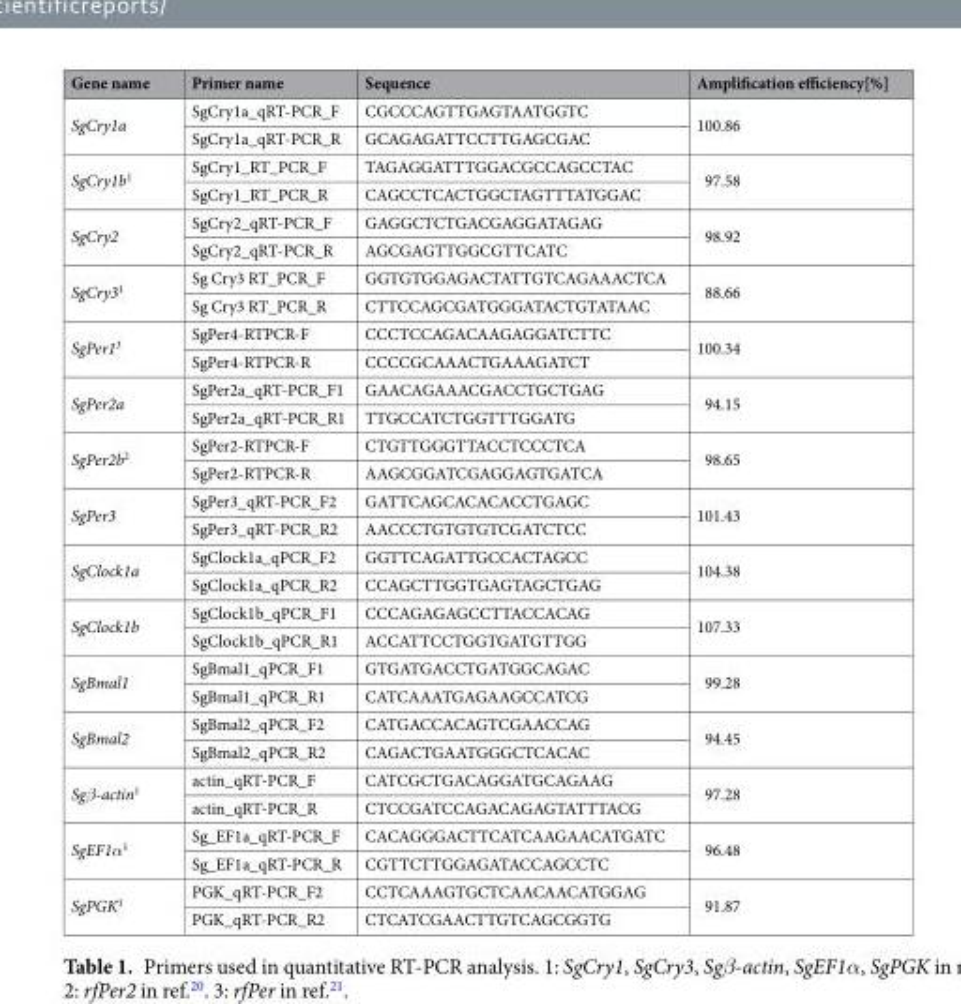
<table><thead><tr><td>Gene name</td><td>Primer name</td><td>Sequence</td><td>Amplification efficiency[%]</td></tr></thead><tbody><tr><td rowspan="2">SgCry1a</td><td>SgCry1a_qRT-PCR_F</td><td>CGCCCAGTTGAGTAATGGTC</td><td rowspan="2">100.86</td></tr><tr><td>SgCry1a_qRT-PCR_R</td><td>GCAGAGATTCCTTGAGCGAC</td></tr><tr><td rowspan="2">SgCry1b<sup>1</sup></td><td>SgCry1_RT_PCR_F</td><td>TAGAGGATTTGGACGCCAGCCTAC</td><td rowspan="2">97.58</td></tr><tr><td>SgCry1_RT_PCR_R</td><td>CAGCCTCACTGGCTAGTTTATGGAC</td></tr><tr><td rowspan="2">SgCry2</td><td>SgCry2_qRT-PCR_F</td><td>GAGGCTCTGACGAGGATAGAG</td><td rowspan="2">98.92</td></tr><tr><td>SgCry2_qRT-PCR_R</td><td>AGCGAGTTGGCGTTCATC</td></tr><tr><td rowspan="2">SgCry3<sup>1</sup></td><td>Sg Cry3 RT_PCR_F</td><td>GGTGTGGAGACTATTGTCAGAAACTCA</td><td rowspan="2">88.66</td></tr><tr><td>Sg Cry3 RT_PCR_R</td><td>CTTCCAGCGATGGGATACTGTATAAC</td></tr><tr><td rowspan="2">SgPer1<sup>3</sup></td><td>SgPer4-RTPCR-F</td><td>CCCTCCAGACAAGAGGATCTTC</td><td rowspan="2">100.34</td></tr><tr><td>SgPer4-RTPCR-R</td><td>CCCCGCAAACTGAAAGATCT</td></tr><tr><td rowspan="2">SgPer2a</td><td>SgPer2a_qRT-PCR_F1</td><td>GAACAGAAACGACCTGCTGAG</td><td rowspan="2">94.15</td></tr><tr><td>SgPer2a_qRT-PCR_R1</td><td>TTGCCATCTGGTTTGGATG</td></tr><tr><td rowspan="2">SgPer2b<sup>2</sup></td><td>SgPer2-RTPCR-F</td><td>CTGTTGGGTTACCTCCCTCA</td><td rowspan="2">98.65</td></tr><tr><td>SgPer2-RTPCR-R</td><td>AAGCGGATCGAGGAGTGATCA</td></tr><tr><td rowspan="2">SgPer3</td><td>SgPer3_qRT-PCR_F2</td><td>GATTCAGCACACACCTGAGC</td><td rowspan="2">101.43</td></tr><tr><td>SgPer3_qRT-PCR_R2</td><td>AACCCTGTGTGTCGATCTCC</td></tr><tr><td rowspan="2">SgClock1a</td><td>SgClock1a_qPCR_F2</td><td>GGTTCAGATTGCCACTAGCC</td><td rowspan="2">104.38</td></tr><tr><td>SgClock1a_qPCR_R2</td><td>CCAGCTTGGTGAGTAGCTGAG</td></tr><tr><td rowspan="2">SgClock1b</td><td>SgClock1b_qPCR_F1</td><td>CCCAGAGAGCCTTACCACAG</td><td rowspan="2">107.33</td></tr><tr><td>SgClock1b_qPCR_R1</td><td>ACCATTCCTGGTGATGTTGG</td></tr><tr><td rowspan="2">SgBmal1</td><td>SgBmal1_qPCR_F1</td><td>GTGATGACCTGATGGCAGAC</td><td rowspan="2">99.28</td></tr><tr><td>SgBmal1_qPCR_R1</td><td>CATCAAATGAGAAGCCATCG</td></tr><tr><td rowspan="2">SgBmal2</td><td>SgBmal2_qPCR_F2</td><td>CATGACCACAGTCGAACCAG</td><td rowspan="2">94.45</td></tr><tr><td>SgBmal2_qPCR_R2</td><td>CAGACTGAATGGGCTCACAC</td></tr><tr><td rowspan="2">Sgβ-actin<sup>1</sup></td><td>actin_qRT-PCR_F</td><td>CATCGCTGACAGGATGCAGAAG</td><td rowspan="2">97.28</td></tr><tr><td>actin_qRT-PCR_R</td><td>CTCCGATCCAGACAGAGTATTTACG</td></tr><tr><td rowspan="2">SgEF1α<sup>1</sup></td><td>Sg_EF1a_qRT-PCR_F</td><td>CACAGGGACTTCATCAAGAACATGATC</td><td rowspan="2">96.48</td></tr><tr><td>Sg_EF1a_qRT-PCR_R</td><td>CGTTCTTGGAGATACCAGCCTC</td></tr><tr><td rowspan="2">SgPGK<sup>1</sup></td><td>PGK_qRT-PCR_F2</td><td>CCTCAAAGTGCTCAACAACATGGAG</td><td rowspan="2">91.87</td></tr><tr><td>PGK_qRT-PCR_R2</td><td>CTCATCGAACTTGTCAGCGGTG</td></tr></tbody></table>